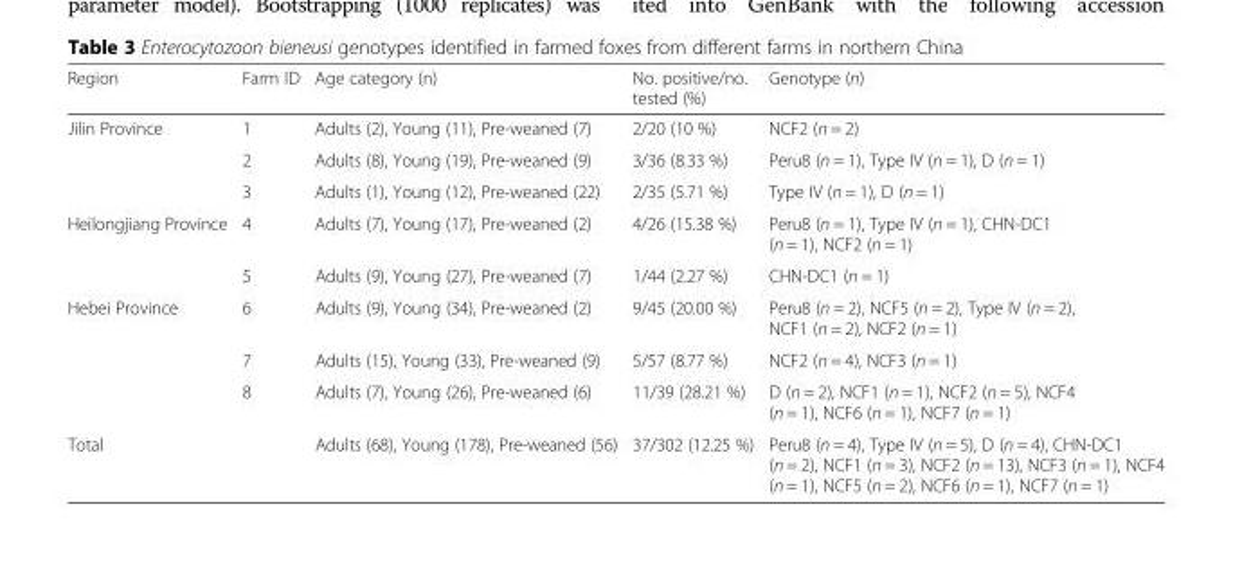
<table><thead><tr><td>Region</td><td>Farm ID</td><td>Age category (n)</td><td>No. positive/no. tested (%)</td><td>Genotype (n)</td></tr></thead><tbody><tr><td rowspan="3">Jilin Province</td><td>1</td><td>Adults (2), Young (11), Pre-weaned (7)</td><td>2/20 (10 %)</td><td>NCF2 (n = 2)</td></tr><tr><td>2</td><td>Adults (8), Young (19), Pre-weaned (9)</td><td>3/36 (8.33 %)</td><td>Peru8 (n = 1), Type IV (n = 1), D (n = 1)</td></tr><tr><td>3</td><td>Adults (1), Young (12), Pre-weaned (22)</td><td>2/35 (5.71 %)</td><td>Type IV (n = 1), D (n = 1)</td></tr><tr><td rowspan="2">Heilongjiang Province</td><td>4</td><td>Adults (7), Young (17), Pre-weaned (2)</td><td>4/26 (15.38 %)</td><td>Peru8 (n = 1), Type IV (n = 1), CHN-DC1 (n = 1), NCF2 (n = 1)</td></tr><tr><td>5</td><td>Adults (9), Young (27), Pre-weaned (7)</td><td>1/44 (2.27 %)</td><td>CHN-DC1 (n = 1)</td></tr><tr><td rowspan="3">Hebei Province</td><td>6</td><td>Adults (9), Young (34), Pre-weaned (2)</td><td>9/45 (20.00 %)</td><td>Peru8 (n = 2), NCF5 (n = 2), Type IV (n = 2), NCF1 (n = 2), NCF2 (n = 1)</td></tr><tr><td>7</td><td>Adults (15), Young (33), Pre-weaned (9)</td><td>5/57 (8.77 %)</td><td>NCF2 (n = 4), NCF3 (n = 1)</td></tr><tr><td>8</td><td>Adults (7), Young (26), Pre-weaned (6)</td><td>11/39 (28.21 %)</td><td>D (n = 2), NCF1 (n = 1), NCF2 (n = 5), NCF4 (n = 1), NCF6 (n = 1), NCF7 (n = 1)</td></tr><tr><td>Total</td><td></td><td>Adults (68), Young (178), Pre-weaned (56)</td><td>37/302 (12.25 %)</td><td>Peru8 (n = 4), Type IV (n = 5), D (n = 4), CHN-DC1 (n = 2), NCF1 (n = 3), NCF2 (n = 13), NCF3 (n = 1), NCF4 (n = 1), NCF5 (n = 2), NCF6 (n = 1), NCF7 (n = 1)</td></tr></tbody></table>